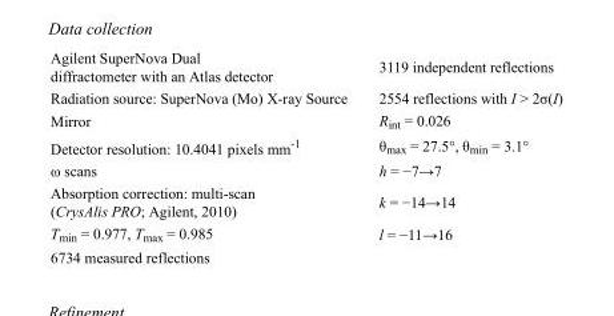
<table><tbody><tr><td>Agilent SuperNova Dual diffractometer with an Atlas detector</td><td>3119 independent reflections</td></tr><tr><td>Radiation source: SuperNova (Mo) X-ray Source</td><td>2554 reflections with I &gt; 2σ(I)</td></tr><tr><td>Mirror</td><td>R<sub>int</sub> = 0.026</td></tr><tr><td>Detector resolution: 10.4041 pixels mm<sup>-1</sup></td><td>θ<sub>max</sub> = 27.5°, θ<sub>min</sub> = 3.1°</td></tr><tr><td>ω scans</td><td>h = −7→7</td></tr><tr><td>Absorption correction: multi-scan (CrysAlis PRO; Agilent, 2010)</td><td>k = −14→14</td></tr><tr><td>T<sub>min</sub> = 0.977, T<sub>max</sub> = 0.985</td><td>l = −11→16</td></tr><tr><td>6734 measured reflections</td><td></td></tr></tbody></table>